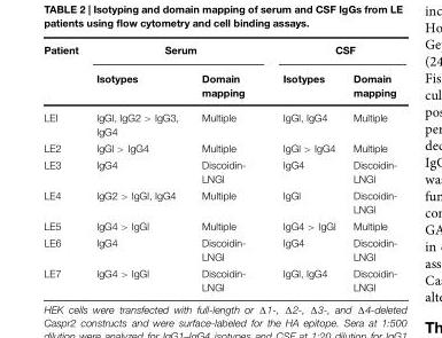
<table><thead><tr><td rowspan="2">Patient</td><td colspan="2">Serum</td><td colspan="2">CSF</td></tr><tr><td>Isotypes</td><td>Domain mapping</td><td>Isotypes</td><td>Domain mapping</td></tr></thead><tbody><tr><td>LEI</td><td>IgGl, IgG2 &gt; IgG3, IgG4</td><td>Multiple</td><td>IgGl, IgG4</td><td>Multiple</td></tr><tr><td>LE2</td><td>IgGl &gt; IgG4</td><td>Multiple</td><td>IgGl &gt; IgG4</td><td>Multiple</td></tr><tr><td>LE3</td><td>IgG4</td><td>Discoidin- LNGl</td><td>IgG4</td><td>Discoidin- LNGl</td></tr><tr><td>LE4</td><td>IgG2 &gt; IgGl, IgG4</td><td>Multiple</td><td>IgGl</td><td>Discoidin- LNGl</td></tr><tr><td>LE5</td><td>IgG4 &gt; IgGl</td><td>Multiple</td><td>IgG4 &gt; IgGl</td><td>Multiple</td></tr><tr><td>LE6</td><td>IgG4</td><td>Discoidin- LNGl</td><td>IgG4</td><td>Discoidin- LNGl</td></tr><tr><td>LE7</td><td>IgG4 &gt; IgGl</td><td>Discoidin- LNGl</td><td>IgGl, IgG4</td><td>Discoidin- LNGl</td></tr></tbody></table>